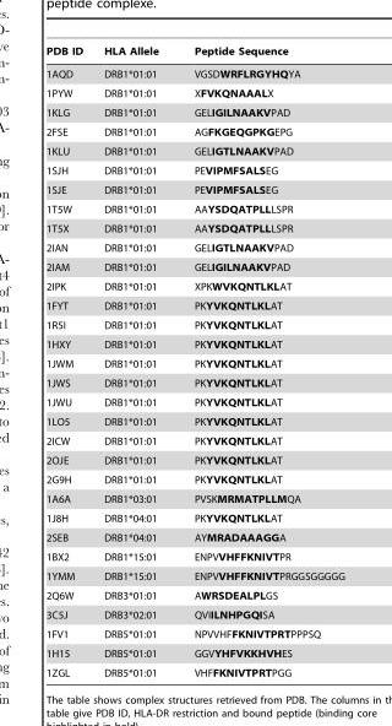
<table><thead><tr><td>PDB ID</td><td>HLA Allele</td><td>Peptide Sequence</td></tr></thead><tbody><tr><td>1AQD</td><td>DRB1*01:01</td><td>VGSDWRFLRGYHQYA</td></tr><tr><td>1PYW</td><td>DRB1*01:01</td><td>XFVKQNAAALX</td></tr><tr><td>1KLG</td><td>DRB1*01:01</td><td>GELIGILNAAKVPAD</td></tr><tr><td>2FSE</td><td>DRB1*01:01</td><td>AGFKGEQGPKGEPG</td></tr><tr><td>1KLU</td><td>DRB1*01:01</td><td>GELIGTLNAAKVPAD</td></tr><tr><td>1SJH</td><td>DRB1*01:01</td><td>PEVIPMFSALSEG</td></tr><tr><td>1SJE</td><td>DRB1*01:01</td><td>PEVIPMFSALSEG</td></tr><tr><td>1T5W</td><td>DRB1*01:01</td><td>AAYSDQATPLLLSPR</td></tr><tr><td>1T5X</td><td>DRB1*01:01</td><td>AAYSDQATPLLLSPR</td></tr><tr><td>2IAN</td><td>DRB1*01:01</td><td>GELIGTLNAAKVPAD</td></tr><tr><td>2IAM</td><td>DRB1*01:01</td><td>GELIGILNAAKVPAD</td></tr><tr><td>2IPK</td><td>DRB1*01:01</td><td>XPKWVKQNTLKLAT</td></tr><tr><td>1FYT</td><td>DRB1*01:01</td><td>PKYVKQNTLKLAT</td></tr><tr><td>1R5I</td><td>DRB1*01:01</td><td>PKYVKQNTLKLAT</td></tr><tr><td>1HXY</td><td>DRB1*01:01</td><td>PKYVKQNTLKLAT</td></tr><tr><td>1JWM</td><td>DRB1*01:01</td><td>PKYVKQNTLKLAT</td></tr><tr><td>1JWS</td><td>DRB1*01:01</td><td>PKYVKQNTLKLAT</td></tr><tr><td>1JWU</td><td>DRB1*01:01</td><td>PKYVKQNTLKLAT</td></tr><tr><td>1LO5</td><td>DRB1*01:01</td><td>PKYVKQNTLKLAT</td></tr><tr><td>2ICW</td><td>DRB1*01:01</td><td>PKYVKQNTLKLAT</td></tr><tr><td>2OJE</td><td>DRB1*01:01</td><td>PKYVKQNTLKLAT</td></tr><tr><td>2G9H</td><td>DRB1*01:01</td><td>PKYVKQNTLKLAT</td></tr><tr><td>1A6A</td><td>DRB1*03:01</td><td>PVSKMRMATPLLMQA</td></tr><tr><td>1J8H</td><td>DRB1*04:01</td><td>PKYVKQNTLKLAT</td></tr><tr><td>2SEB</td><td>DRB1*04:01</td><td>AYMRADAAAGGA</td></tr><tr><td>1BX2</td><td>DRB1*15:01</td><td>ENPVVHFFKNIVTPR</td></tr><tr><td>1YMM</td><td>DRB1*15:01</td><td>ENPVVHFFKNIVTPRGGSGGGGG</td></tr><tr><td>2Q6W</td><td>DRB3*01:01</td><td>AWRSDEALPLGS</td></tr><tr><td>3C5J</td><td>DRB3*02:01</td><td>QVIILNHPGQISA</td></tr><tr><td>1FV1</td><td>DRB5*01:01</td><td>NPVVHFFKNIVTPRTPPPSQ</td></tr><tr><td>1H15</td><td>DRB5*01:01</td><td>GGVYHFVKKHVHES</td></tr><tr><td>1ZGL</td><td>DRB5*01:01</td><td>VHFFKNIVTPRTPGG</td></tr></tbody></table>